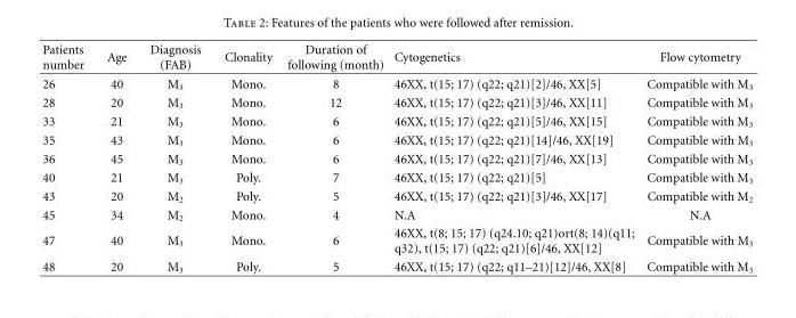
<table><thead><tr><td>Patients number</td><td>Age</td><td>Diagnosis (FAB)</td><td>Clonality</td><td>Duration of following (month)</td><td>Cytogenetics</td><td>Flow cytometry</td></tr></thead><tbody><tr><td>26</td><td>40</td><td>M<sub>3</sub></td><td>Mono.</td><td>8</td><td>46XX, t(15; 17) (q22; q21)[2]/46, XX[5]</td><td>Compatible with M<sub>3</sub></td></tr><tr><td>28</td><td>20</td><td>M<sub>3</sub></td><td>Mono.</td><td>12</td><td>46XX, t(15; 17) (q22; q21)[3]/46, XX[11]</td><td>Compatible with M<sub>3</sub></td></tr><tr><td>33</td><td>21</td><td>M<sub>3</sub></td><td>Mono.</td><td>6</td><td>46XX, t(15; 17) (q22; q21)[5]/46, XX[15]</td><td>Compatible with M<sub>3</sub></td></tr><tr><td>35</td><td>43</td><td>M<sub>3</sub></td><td>Mono.</td><td>6</td><td>46XX, t(15; 17) (q22; q21)[14]/46, XX[19]</td><td>Compatible with M<sub>3</sub></td></tr><tr><td>36</td><td>45</td><td>M<sub>3</sub></td><td>Mono.</td><td>6</td><td>46XX, t(15; 17) (q22; q21)[7]/46, XX[13]</td><td>Compatible with M<sub>3</sub></td></tr><tr><td>40</td><td>21</td><td>M<sub>3</sub></td><td>Poly.</td><td>7</td><td>46XX, t(15; 17) (q22; q21)[5]</td><td>Compatible with M<sub>3</sub></td></tr><tr><td>43</td><td>20</td><td>M<sub>2</sub></td><td>Poly.</td><td>5</td><td>46XX, t(15; 17) (q22; q21)[3]/46, XX[17]</td><td>Compatible with M<sub>2</sub></td></tr><tr><td>45</td><td>34</td><td>M<sub>2</sub></td><td>Mono.</td><td>4</td><td>N.A</td><td>N.A</td></tr><tr><td>47</td><td>40</td><td>M<sub>3</sub></td><td>Mono.</td><td>6</td><td>46XX, t(8; 15; 17) (q24.10; q21)ort(8; 14)(q11; q32), t(15; 17) (q22; q21)[6]/46, XX[12]</td><td>Compatible with M<sub>3</sub></td></tr><tr><td>48</td><td>20</td><td>M<sub>3</sub></td><td>Poly.</td><td>5</td><td>46XX, t(15; 17) (q22; q11–21)[12]/46, XX[8]</td><td>Compatible with M<sub>3</sub></td></tr></tbody></table>